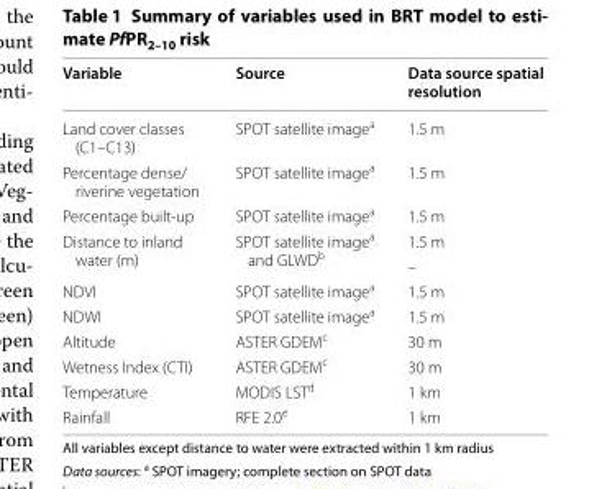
<table><thead><tr><td>Variable</td><td>Source</td><td>Data source spatial resolution</td></tr></thead><tbody><tr><td>Land cover classes (C1–C13)</td><td>SPOT satellite image<sup>a</sup></td><td>1.5 m</td></tr><tr><td>Percentage dense/ riverine vegetation</td><td>SPOT satellite image<sup>a</sup></td><td>1.5 m</td></tr><tr><td>Percentage built-up</td><td>SPOT satellite image<sup>a</sup></td><td>1.5 m</td></tr><tr><td rowspan="2">Distance to inland water (m)</td><td rowspan="2">SPOT satellite image<sup>a</sup> and GLWD<sup>b</sup></td><td>1.5 m</td></tr><tr><td>–</td></tr><tr><td>NDVI</td><td>SPOT satellite image<sup>a</sup></td><td>1.5 m</td></tr><tr><td>NDWI</td><td>SPOT satellite image<sup>a</sup></td><td>1.5 m</td></tr><tr><td>Altitude</td><td>ASTER GDEM<sup>c</sup></td><td>30 m</td></tr><tr><td>Wetness Index (CTI)</td><td>ASTER GDEM<sup>c</sup></td><td>30 m</td></tr><tr><td>Temperature</td><td>MODIS LST<sup>d</sup></td><td>1 km</td></tr><tr><td>Rainfall</td><td>RFE 2.0<sup>e</sup></td><td>1 km</td></tr></tbody></table>